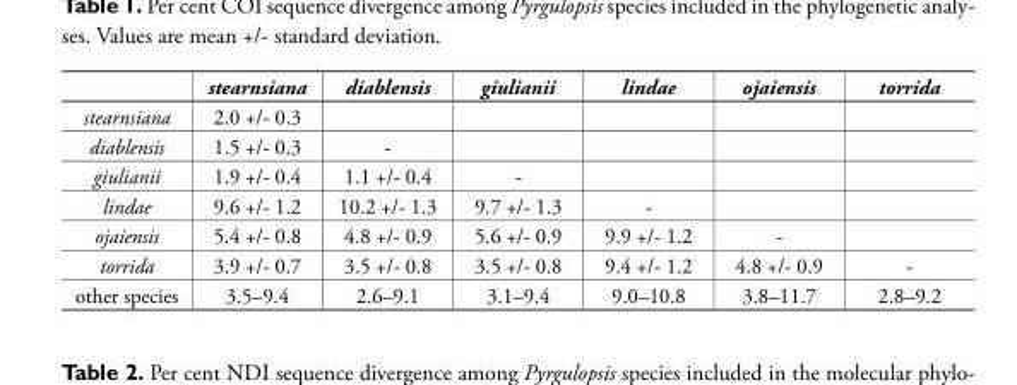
<table><thead><tr><td></td><td>stearnsiana</td><td>diablensis</td><td>giulianii</td><td>lindae</td><td>ojaiensis</td><td>torrida</td></tr></thead><tbody><tr><td>stearnsiana</td><td>2.0 +/- 0.3</td><td></td><td></td><td></td><td></td><td></td></tr><tr><td>diablensis</td><td>1.5 +/- 0.3</td><td>-</td><td></td><td></td><td></td><td></td></tr><tr><td>giulianii</td><td>1.9 +/- 0.4</td><td>1.1 +/- 0.4</td><td>-</td><td></td><td></td><td></td></tr><tr><td>lindae</td><td>9.6 +/- 1.2</td><td>10.2 +/- 1.3</td><td>9.7 +/- 1.3</td><td>-</td><td></td><td></td></tr><tr><td>ojaiensis</td><td>5.4 +/- 0.8</td><td>4.8 +/- 0.9</td><td>5.6 +/- 0.9</td><td>9.9 +/- 1.2</td><td>-</td><td></td></tr><tr><td>torrida</td><td>3.9 +/- 0.7</td><td>3.5 +/- 0.8</td><td>3.5 +/- 0.8</td><td>9.4 +/- 1.2</td><td>4.8 +/- 0.9</td><td>-</td></tr><tr><td>other species</td><td>3.5–9.4</td><td>2.6–9.1</td><td>3.1–9.4</td><td>9.0–10.8</td><td>3.8–11.7</td><td>2.8–9.2</td></tr></tbody></table>